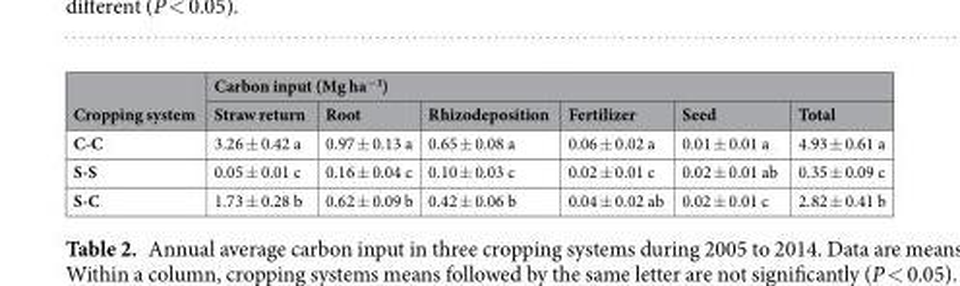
<table><thead><tr><td rowspan="2">Cropping system</td><td colspan="6">Carbon input (Mg ha<sup>−1</sup>)</td></tr><tr><td>Straw return</td><td>Root</td><td>Rhizodeposition</td><td>Fertilizer</td><td>Seed</td><td>Total</td></tr></thead><tbody><tr><td>C-C</td><td>3.26 ± 0.42 a</td><td>0.97 ± 0.13 a</td><td>0.65 ± 0.08 a</td><td>0.06 ± 0.02 a</td><td>0.01 ± 0.01 a</td><td>4.93 ± 0.61 a</td></tr><tr><td>S-S</td><td>0.05 ± 0.01 c</td><td>0.16 ± 0.04 c</td><td>0.10 ± 0.03 c</td><td>0.02 ± 0.01 c</td><td>0.02 ± 0.01 ab</td><td>0.35 ± 0.09 c</td></tr><tr><td>S-C</td><td>1.73 ± 0.28 b</td><td>0.62 ± 0.09 b</td><td>0.42 ± 0.06 b</td><td>0.04 ± 0.02 ab</td><td>0.02 ± 0.01 c</td><td>2.82 ± 0.41 b</td></tr></tbody></table>